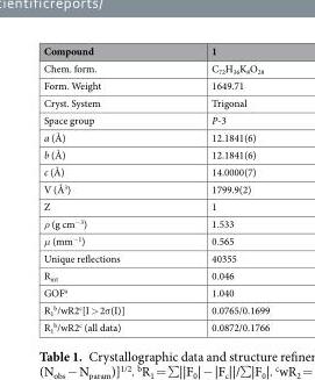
<table><thead><tr><td>Compound</td><td>1</td></tr></thead><tbody><tr><td>Chem. form.</td><td>C<sub>72</sub>H<sub>36</sub>K<sub>8</sub>O<sub>28</sub></td></tr><tr><td>Form. Weight</td><td>1649.71</td></tr><tr><td>Cryst. System</td><td>Trigonal</td></tr><tr><td>Space group</td><td>P-3</td></tr><tr><td>a (Å)</td><td>12.1841(6)</td></tr><tr><td>b (Å)</td><td>12.1841(6)</td></tr><tr><td>c (Å)</td><td>14.0000(7)</td></tr><tr><td>V (Å<sup>3</sup>)</td><td>1799.9(2)</td></tr><tr><td>Z</td><td>1</td></tr><tr><td>ρ (g cm<sup>−3</sup>)</td><td>1.533</td></tr><tr><td>μ (mm<sup>−1</sup>)</td><td>0.565</td></tr><tr><td>Unique reflections</td><td>40355</td></tr><tr><td>R<sub>int</sub></td><td>0.046</td></tr><tr><td>GOF<sup>a</sup></td><td>1.040</td></tr><tr><td>R<sub>1</sub> <sup>b</sup>/wR2<sup>c</sup>[I &gt; 2σ(I)]</td><td>0.0765/0.1699</td></tr><tr><td>R<sub>1</sub> <sup>b</sup>/wR2<sup>c</sup> (all data)</td><td>0.0872/0.1766</td></tr></tbody></table>